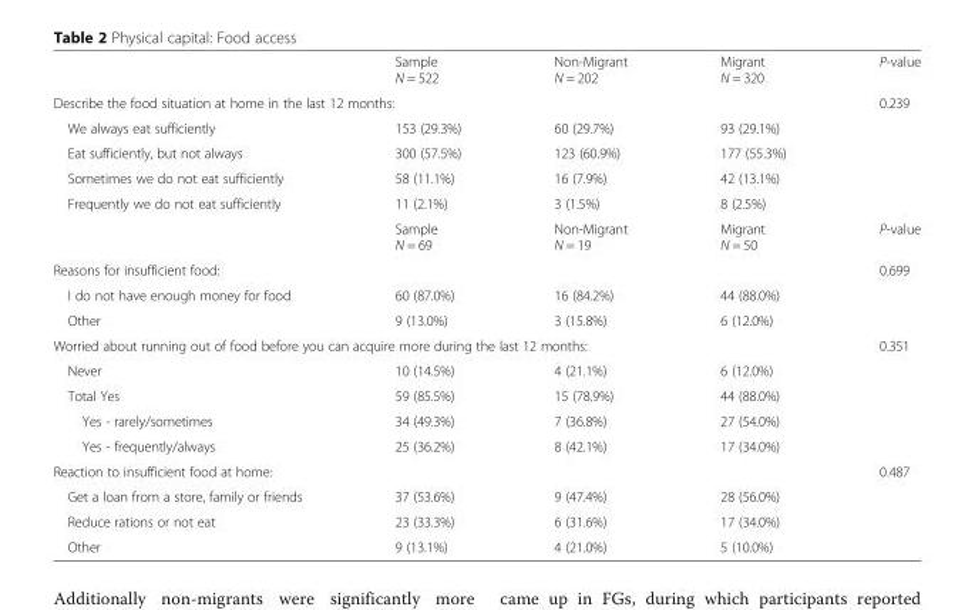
<table><thead><tr><td></td><td>Sample N = 522</td><td>Non-Migrant N = 202</td><td>Migrant N = 320</td><td>P-value</td></tr></thead><tbody><tr><td colspan="4">Describe the food situation at home in the last 12 months:</td><td>0.239</td></tr><tr><td>We always eat sufficiently</td><td>153 (29.3%)</td><td>60 (29.7%)</td><td>93 (29.1%)</td><td></td></tr><tr><td>Eat sufficiently, but not always</td><td>300 (57.5%)</td><td>123 (60.9%)</td><td>177 (55.3%)</td><td></td></tr><tr><td>Sometimes we do not eat sufficiently</td><td>58 (11.1%)</td><td>16 (7.9%)</td><td>42 (13.1%)</td><td></td></tr><tr><td rowspan="2">Frequently we do not eat sufficiently</td><td>11 (2.1%)</td><td>3 (1.5%)</td><td>8 (2.5%)</td><td></td></tr><tr><td>Sample N = 69</td><td>Non-Migrant N = 19</td><td>Migrant N = 50</td><td>P-value</td></tr><tr><td>Reasons for insufficient food:</td><td></td><td></td><td></td><td>0.699</td></tr><tr><td>I do not have enough money for food</td><td>60 (87.0%)</td><td>16 (84.2%)</td><td>44 (88.0%)</td><td></td></tr><tr><td>Other</td><td>9 (13.0%)</td><td>3 (15.8%)</td><td>6 (12.0%)</td><td></td></tr><tr><td colspan="4">Worried about running out of food before you can acquire more during the last 12 months:</td><td>0.351</td></tr><tr><td>Never</td><td>10 (14.5%)</td><td>4 (21.1%)</td><td>6 (12.0%)</td><td></td></tr><tr><td>Total Yes</td><td>59 (85.5%)</td><td>15 (78.9%)</td><td>44 (88.0%)</td><td></td></tr><tr><td>Yes - rarely/sometimes</td><td>34 (49.3%)</td><td>7 (36.8%)</td><td>27 (54.0%)</td><td></td></tr><tr><td>Yes - frequently/always</td><td>25 (36.2%)</td><td>8 (42.1%)</td><td>17 (34.0%)</td><td></td></tr><tr><td colspan="4">Reaction to insufficient food at home:</td><td>0.487</td></tr><tr><td>Get a loan from a store, family or friends</td><td>37 (53.6%)</td><td>9 (47.4%)</td><td>28 (56.0%)</td><td></td></tr><tr><td>Reduce rations or not eat</td><td>23 (33.3%)</td><td>6 (31.6%)</td><td>17 (34.0%)</td><td></td></tr><tr><td>Other</td><td>9 (13.1%)</td><td>4 (21.0%)</td><td>5 (10.0%)</td><td></td></tr></tbody></table>